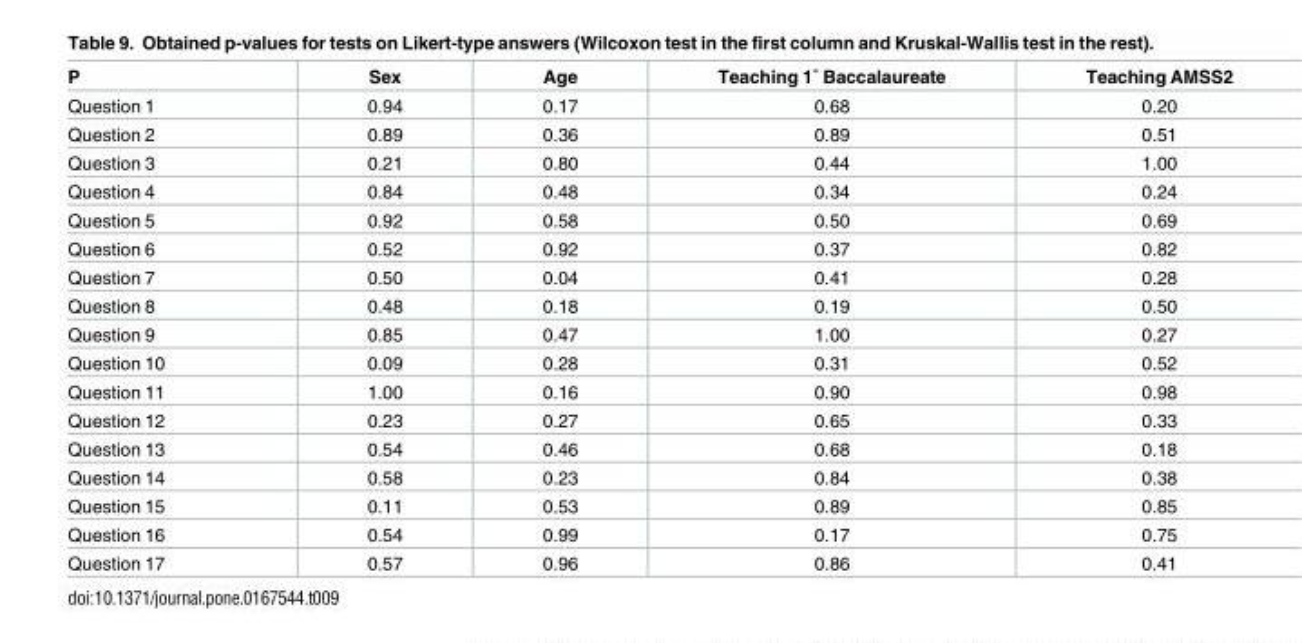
<table><thead><tr><td>P</td><td>Sex</td><td>Age</td><td>Teaching 1˚ Baccalaureate</td><td>Teaching AMSS2</td></tr></thead><tbody><tr><td>Question 1</td><td>0.94</td><td>0.17</td><td>0.68</td><td>0.20</td></tr><tr><td>Question 2</td><td>0.89</td><td>0.36</td><td>0.89</td><td>0.51</td></tr><tr><td>Question 3</td><td>0.21</td><td>0.80</td><td>0.44</td><td>1.00</td></tr><tr><td>Question 4</td><td>0.84</td><td>0.48</td><td>0.34</td><td>0.24</td></tr><tr><td>Question 5</td><td>0.92</td><td>0.58</td><td>0.50</td><td>0.69</td></tr><tr><td>Question 6</td><td>0.52</td><td>0.92</td><td>0.37</td><td>0.82</td></tr><tr><td>Question 7</td><td>0.50</td><td>0.04</td><td>0.41</td><td>0.28</td></tr><tr><td>Question 8</td><td>0.48</td><td>0.18</td><td>0.19</td><td>0.50</td></tr><tr><td>Question 9</td><td>0.85</td><td>0.47</td><td>1.00</td><td>0.27</td></tr><tr><td>Question 10</td><td>0.09</td><td>0.28</td><td>0.31</td><td>0.52</td></tr><tr><td>Question 11</td><td>1.00</td><td>0.16</td><td>0.90</td><td>0.98</td></tr><tr><td>Question 12</td><td>0.23</td><td>0.27</td><td>0.65</td><td>0.33</td></tr><tr><td>Question 13</td><td>0.54</td><td>0.46</td><td>0.68</td><td>0.18</td></tr><tr><td>Question 14</td><td>0.58</td><td>0.23</td><td>0.84</td><td>0.38</td></tr><tr><td>Question 15</td><td>0.11</td><td>0.53</td><td>0.89</td><td>0.85</td></tr><tr><td>Question 16</td><td>0.54</td><td>0.99</td><td>0.17</td><td>0.75</td></tr><tr><td>Question 17</td><td>0.57</td><td>0.96</td><td>0.86</td><td>0.41</td></tr></tbody></table>